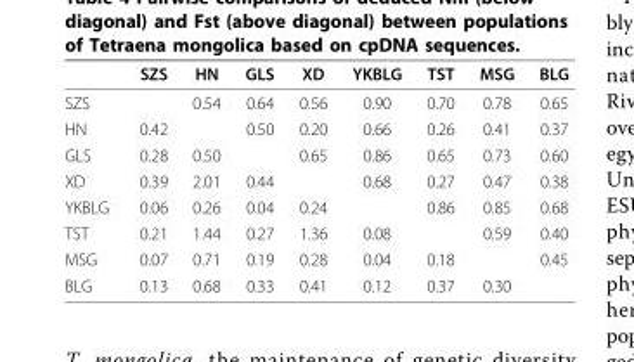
<table><thead><tr><td></td><td>SZS</td><td>HN</td><td>GLS</td><td>XD</td><td>YKBLG</td><td>TST</td><td>MSG</td><td>BLG</td></tr></thead><tbody><tr><td>SZS</td><td></td><td>0.54</td><td>0.64</td><td>0.56</td><td>0.90</td><td>0.70</td><td>0.78</td><td>0.65</td></tr><tr><td>HN</td><td>0.42</td><td></td><td>0.50</td><td>0.20</td><td>0.66</td><td>0.26</td><td>0.41</td><td>0.37</td></tr><tr><td>GLS</td><td>0.28</td><td>0.50</td><td></td><td>0.65</td><td>0.86</td><td>0.65</td><td>0.73</td><td>0.60</td></tr><tr><td>XD</td><td>0.39</td><td>2.01</td><td>0.44</td><td></td><td>0.68</td><td>0.27</td><td>0.47</td><td>0.38</td></tr><tr><td>YKBLG</td><td>0.06</td><td>0.26</td><td>0.04</td><td>0.24</td><td></td><td>0.86</td><td>0.85</td><td>0.68</td></tr><tr><td>TST</td><td>0.21</td><td>1.44</td><td>0.27</td><td>1.36</td><td>0.08</td><td></td><td>0.59</td><td>0.40</td></tr><tr><td>MSG</td><td>0.07</td><td>0.71</td><td>0.19</td><td>0.28</td><td>0.04</td><td>0.18</td><td></td><td>0.45</td></tr><tr><td>BLG</td><td>0.13</td><td>0.68</td><td>0.33</td><td>0.41</td><td>0.12</td><td>0.37</td><td>0.30</td><td></td></tr></tbody></table>